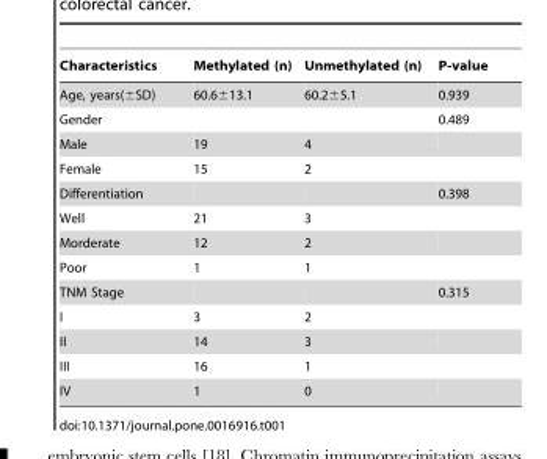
<table><thead><tr><td>Characteristics</td><td>Methylated (n)</td><td>Unmethylated (n)</td><td>P-value</td></tr></thead><tbody><tr><td>Age, years(±SD)</td><td>60.6±13.1</td><td>60.2±5.1</td><td>0.939</td></tr><tr><td>Gender</td><td></td><td></td><td>0.489</td></tr><tr><td>Male</td><td>19</td><td>4</td><td></td></tr><tr><td>Female</td><td>15</td><td>2</td><td></td></tr><tr><td>Differentiation</td><td></td><td></td><td>0.398</td></tr><tr><td>Well</td><td>21</td><td>3</td><td></td></tr><tr><td>Morderate</td><td>12</td><td>2</td><td></td></tr><tr><td>Poor</td><td>1</td><td>1</td><td></td></tr><tr><td>TNM Stage</td><td></td><td></td><td>0.315</td></tr><tr><td>I</td><td>3</td><td>2</td><td></td></tr><tr><td>II</td><td>14</td><td>3</td><td></td></tr><tr><td>III</td><td>16</td><td>1</td><td></td></tr><tr><td>IV</td><td>1</td><td>0</td><td></td></tr></tbody></table>